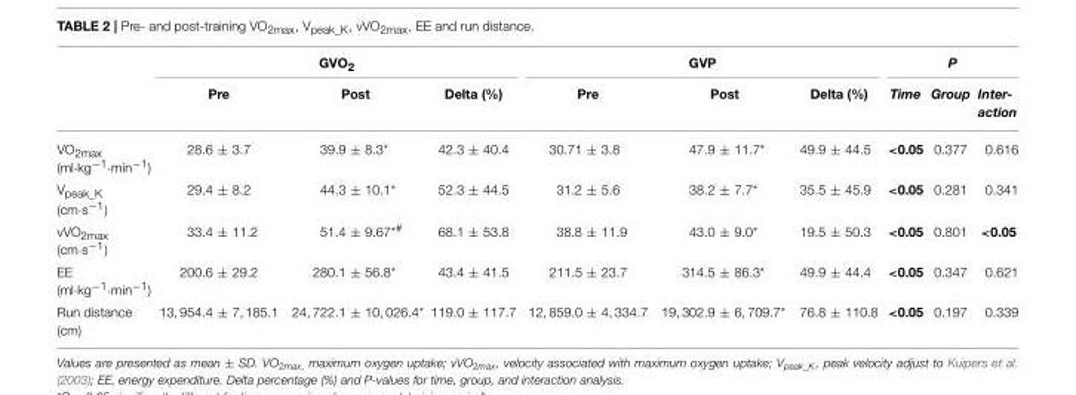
<table><thead><tr><td rowspan="2"></td><td colspan="3">GVO<sub>2</sub></td><td colspan="3">GVP</td><td colspan="3">P</td></tr><tr><td>Pre</td><td>Post</td><td>Delta (%)</td><td>Pre</td><td>Post</td><td>Delta (%)</td><td>Time</td><td>Group</td><td>Inter- action</td></tr></thead><tbody><tr><td>VO<sub>2max</sub> (ml·kg<sup>−1</sup>·min<sup>−1</sup>)</td><td>28.6 ± 3.7</td><td>39.9 ± 8.3*</td><td>42.3 ± 40.4</td><td>30.71 ± 3.8</td><td>47.9 ± 11.7*</td><td>49.9 ± 44.5</td><td>&lt;0.05</td><td>0.377</td><td>0.616</td></tr><tr><td>V<sub>peak_K</sub> (cm·s<sup>−1</sup>)</td><td>29.4 ± 8.2</td><td>44.3 ± 10.1*</td><td>52.3 ± 44.5</td><td>31.2 ± 5.6</td><td>38.2 ± 7.7*</td><td>35.5 ± 45.9</td><td>&lt;0.05</td><td>0.281</td><td>0.341</td></tr><tr><td>vVO<sub>2max</sub> (cm·s<sup>−1</sup>)</td><td>33.4 ± 11.2</td><td>51.4 ± 9.67<sup>*#</sup></td><td>68.1 ± 53.8</td><td>38.8 ± 11.9</td><td>43.0 ± 9.0*</td><td>19.5 ± 50.3</td><td>&lt;0.05</td><td>0.801</td><td>&lt;0.05</td></tr><tr><td>EE (ml·kg<sup>−1</sup>·min<sup>−1</sup>)</td><td>200.6 ± 29.2</td><td>280.1 ± 56.8*</td><td>43.4 ± 41.5</td><td>211.5 ± 23.7</td><td>314.5 ± 86.3*</td><td>49.9 ± 44.4</td><td>&lt;0.05</td><td>0.347</td><td>0.621</td></tr><tr><td>Run distance (cm)</td><td>13, 954.4 ± 7, 185.1</td><td>24, 722.1 ± 10, 026.4*</td><td>119.0 ± 117.7</td><td>12, 859.0 ± 4, 334.7</td><td>19, 302.9 ± 6, 709.7*</td><td>76.8 ± 110.8</td><td>&lt;0.05</td><td>0.197</td><td>0.339</td></tr></tbody></table>